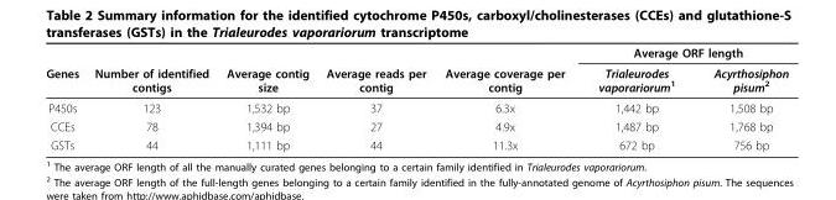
<table><thead><tr><td rowspan="2">Genes</td><td rowspan="2">Number of identified contigs</td><td rowspan="2">Average contig size</td><td rowspan="2">Average reads per contig</td><td rowspan="2">Average coverage per contig</td><td colspan="2">Average ORF length</td></tr><tr><td>Trialeurodes vaporariorum<sup>1</sup></td><td>Acyrthosiphon pisum<sup>2</sup></td></tr></thead><tbody><tr><td>P450s</td><td>123</td><td>1,532 bp</td><td>37</td><td>6.3x</td><td>1,442 bp</td><td>1,508 bp</td></tr><tr><td>CCEs</td><td>78</td><td>1,394 bp</td><td>27</td><td>4.9x</td><td>1,487 bp</td><td>1,768 bp</td></tr><tr><td>GSTs</td><td>44</td><td>1,111 bp</td><td>44</td><td>11.3x</td><td>672 bp</td><td>756 bp</td></tr></tbody></table>